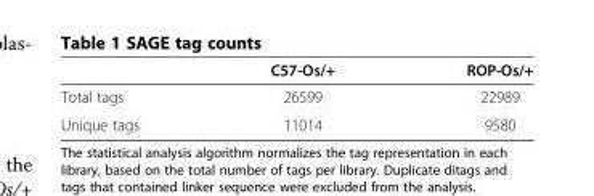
<table><thead><tr><td></td><td>C57-Os/+</td><td>ROP-Os/+</td></tr></thead><tbody><tr><td>Total tags</td><td>26599</td><td>22989</td></tr><tr><td>Unique tags</td><td>11014</td><td>9580</td></tr></tbody></table>